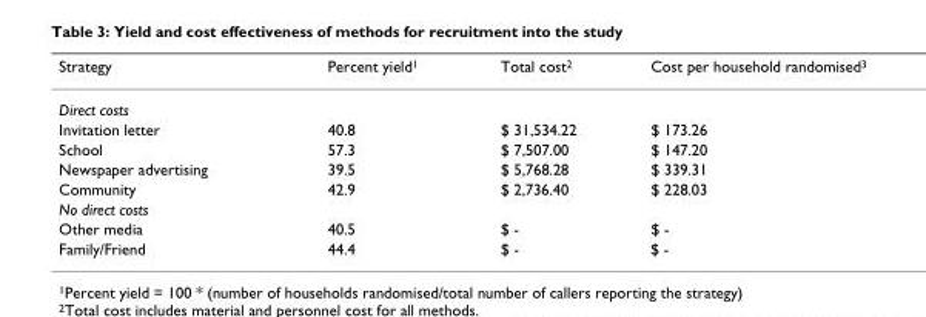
<table><thead><tr><td>Strategy</td><td>Percent yield<sup>1</sup></td><td>Total cost<sup>2</sup></td><td>Cost per household randomised<sup>3</sup></td></tr></thead><tbody><tr><td colspan="4">Direct costs</td></tr><tr><td>Invitation letter</td><td>40.8</td><td>$ 31,534.22</td><td>$ 173.26</td></tr><tr><td>School</td><td>57.3</td><td>$ 7,507.00</td><td>$ 147.20</td></tr><tr><td>Newspaper advertising</td><td>39.5</td><td>$ 5,768.28</td><td>$ 339.31</td></tr><tr><td>Community</td><td>42.9</td><td>$ 2,736.40</td><td>$ 228.03</td></tr><tr><td colspan="4">No direct costs</td></tr><tr><td>Other media</td><td>40.5</td><td>$ -</td><td>$ -</td></tr><tr><td>Family/Friend</td><td>44.4</td><td>$ -</td><td>$ -</td></tr></tbody></table>